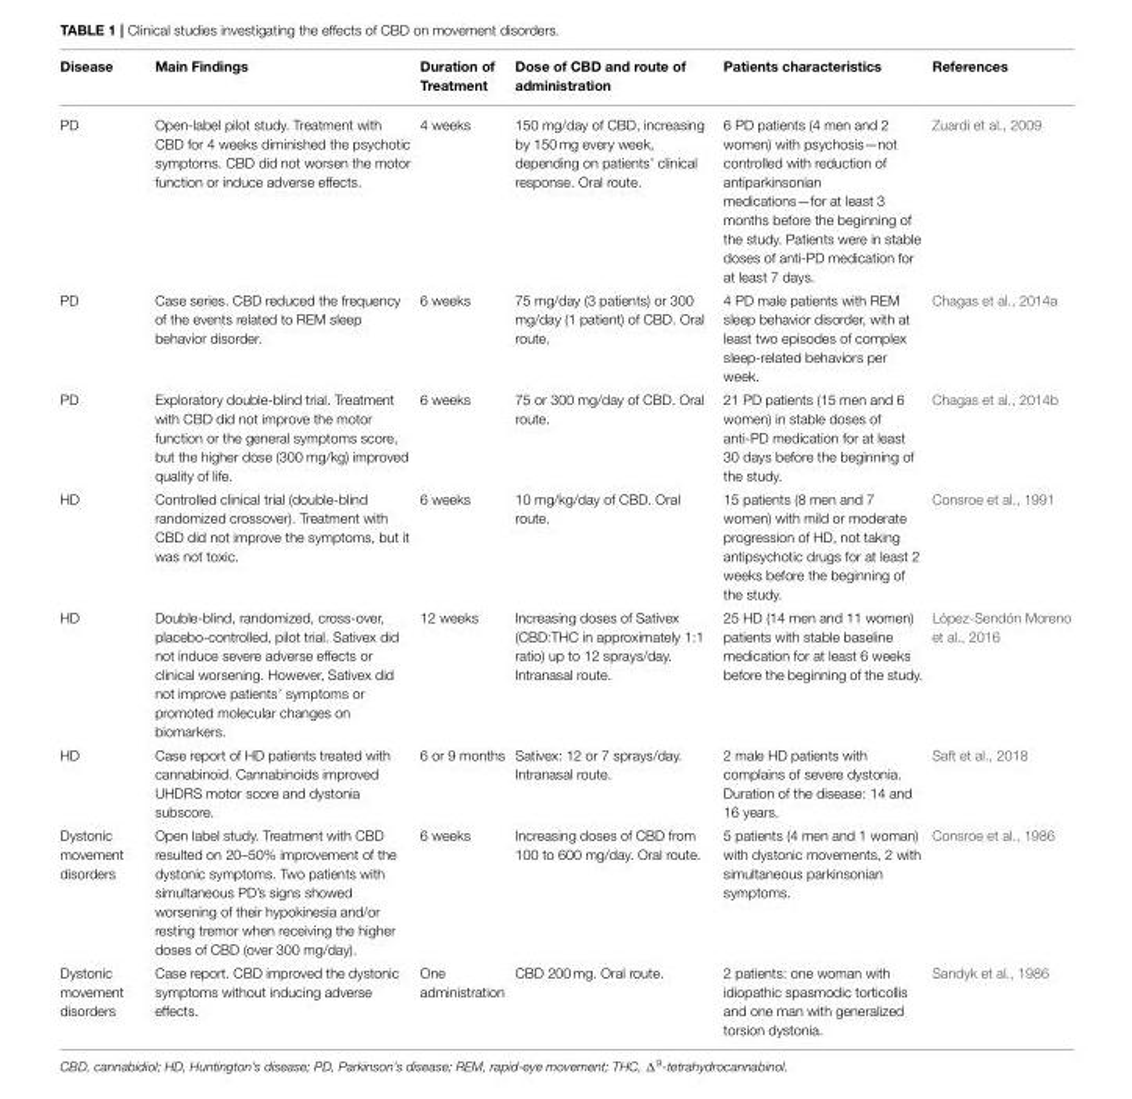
<table><thead><tr><td>Disease</td><td>Main Findings</td><td>Duration of Treatment</td><td>Dose of CBD and route of administration</td><td>Patients characteristics</td><td>References</td></tr></thead><tbody><tr><td>PD</td><td>Open-label pilot study. Treatment with CBD for 4 weeks diminished the psychotic symptoms. CBD did not worsen the motor function or induce adverse effects.</td><td>4 weeks</td><td>150 mg/day of CBD, increasing by 150 mg every week, depending on patients’ clinical response. Oral route.</td><td>6 PD patients (4 men and 2 women) with psychosis—not controlled with reduction of antiparkinsonian medications—for at least 3 months before the beginning of the study. Patients were in stable doses of anti-PD medication for at least 7 days.</td><td>Zuardi et al., 2009</td></tr><tr><td>PD</td><td>Case series. CBD reduced the frequency of the events related to REM sleep behavior disorder.</td><td>6 weeks</td><td>75 mg/day (3 patients) or 300 mg/day (1 patient) of CBD. Oral route.</td><td>4 PD male patients with REM sleep behavior disorder, with at least two episodes of complex sleep-related behaviors per week.</td><td>Chagas et al., 2014a</td></tr><tr><td>PD</td><td>Exploratory double-blind trial. Treatment with CBD did not improve the motor function or the general symptoms score, but the higher dose (300 mg/kg) improved quality of life.</td><td>6 weeks</td><td>75 or 300 mg/day of CBD. Oral route.</td><td>21 PD patients (15 men and 6 women) in stable doses of anti-PD medication for at least 30 days before the beginning of the study.</td><td>Chagas et al., 2014b</td></tr><tr><td>HD</td><td>Controlled clinical trial (double-blind randomized crossover). Treatment with CBD did not improve the symptoms, but it was not toxic.</td><td>6 weeks</td><td>10 mg/kg/day of CBD. Oral route.</td><td>15 patients (8 men and 7 women) with mild or moderate progression of HD, not taking antipsychotic drugs for at least 2 weeks before the beginning of the study.</td><td>Consroe et al., 1991</td></tr><tr><td>HD</td><td>Double-blind, randomized, cross-over, placebo-controlled, pilot trial. Sativex did not induce severe adverse effects or clinical worsening. However, Sativex did not improve patients’ symptoms or promoted molecular changes on biomarkers.</td><td>12 weeks</td><td>Increasing doses of Sativex (CBD:THC in approximately 1:1 ratio) up to 12 sprays/day. Intranasal route.</td><td>25 HD (14 men and 11 women) patients with stable baseline medication for at least 6 weeks before the beginning of the study.</td><td>López-Sendón Moreno et al., 2016</td></tr><tr><td>HD</td><td>Case report of HD patients treated with cannabinoid. Cannabinoids improved UHDRS motor score and dystonia subscore.</td><td>6 or 9 months</td><td>Sativex: 12 or 7 sprays/day. Intranasal route.</td><td>2 male HD patients with complains of severe dystonia. Duration of the disease: 14 and 16 years.</td><td>Saft et al., 2018</td></tr><tr><td>Dystonic movement disorders</td><td>Open label study. Treatment with CBD resulted on 20–50% improvement of the dystonic symptoms. Two patients with simultaneous PD’s signs showed worsening of their hypokinesia and/or resting tremor when receiving the higher doses of CBD (over 300 mg/day).</td><td>6 weeks</td><td>Increasing doses of CBD from 100 to 600 mg/day. Oral route.</td><td>5 patients (4 men and 1 woman) with dystonic movements, 2 with simultaneous parkinsonian symptoms.</td><td>Consroe et al., 1986</td></tr><tr><td>Dystonic movement disorders</td><td>Case report. CBD improved the dystonic symptoms without inducing adverse effects.</td><td>One administration</td><td>CBD 200 mg. Oral route.</td><td>2 patients: one woman with idiopathic spasmodic torticollis and one man with generalized torsion dystonia.</td><td>Sandyk et al., 1986</td></tr></tbody></table>